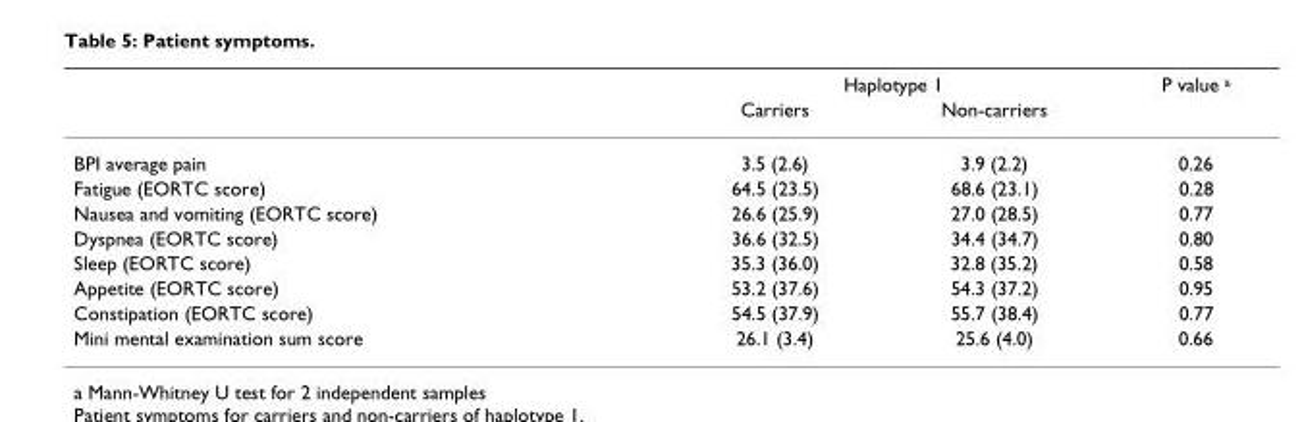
<table><thead><tr><td rowspan="2"></td><td colspan="2">Haplotype 1</td><td rowspan="2">P value <sup>a</sup></td></tr><tr><td>Carriers</td><td>Non-carriers</td></tr></thead><tbody><tr><td>BPI average pain</td><td>3.5 (2.6)</td><td>3.9 (2.2)</td><td>0.26</td></tr><tr><td>Fatigue (EORTC score)</td><td>64.5 (23.5)</td><td>68.6 (23.1)</td><td>0.28</td></tr><tr><td>Nausea and vomiting (EORTC score)</td><td>26.6 (25.9)</td><td>27.0 (28.5)</td><td>0.77</td></tr><tr><td>Dyspnea (EORTC score)</td><td>36.6 (32.5)</td><td>34.4 (34.7)</td><td>0.80</td></tr><tr><td>Sleep (EORTC score)</td><td>35.3 (36.0)</td><td>32.8 (35.2)</td><td>0.58</td></tr><tr><td>Appetite (EORTC score)</td><td>53.2 (37.6)</td><td>54.3 (37.2)</td><td>0.95</td></tr><tr><td>Constipation (EORTC score)</td><td>54.5 (37.9)</td><td>55.7 (38.4)</td><td>0.77</td></tr><tr><td>Mini mental examination sum score</td><td>26.1 (3.4)</td><td>25.6 (4.0)</td><td>0.66</td></tr></tbody></table>